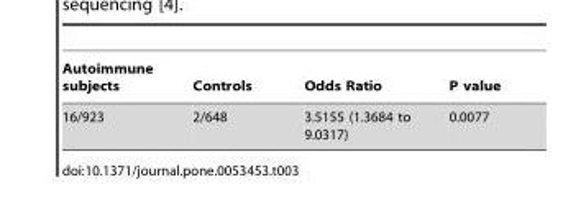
<table><thead><tr><td>Autoimmune subjects</td><td>Controls</td><td>Odds Ratio</td><td>P value</td></tr></thead><tbody><tr><td>16/923</td><td>2/648</td><td>3.5155 (1.3684 to 9.0317)</td><td>0.0077</td></tr></tbody></table>